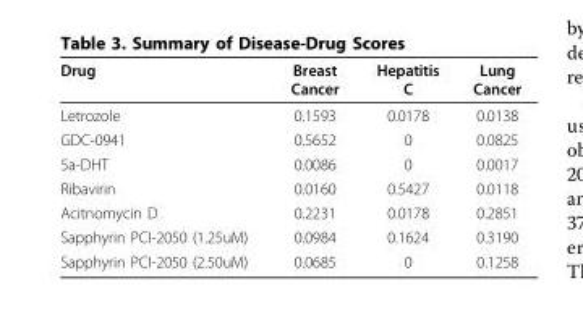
<table><thead><tr><td>Drug</td><td>Breast Cancer</td><td>Hepatitis C</td><td>Lung Cancer</td></tr></thead><tbody><tr><td>Letrozole</td><td>0.1593</td><td>0.0178</td><td>0.0138</td></tr><tr><td>GDC-0941</td><td>0.5652</td><td>0</td><td>0.0825</td></tr><tr><td>5a-DHT</td><td>0.0086</td><td>0</td><td>0.0017</td></tr><tr><td>Ribavirin</td><td>0.0160</td><td>0.5427</td><td>0.0118</td></tr><tr><td>Acitnomycin D</td><td>0.2231</td><td>0.0178</td><td>0.2851</td></tr><tr><td>Sapphyrin PCI-2050 (1.25uM)</td><td>0.0984</td><td>0.1624</td><td>0.3190</td></tr><tr><td>Sapphyrin PCI-2050 (2.50uM)</td><td>0.0685</td><td>0</td><td>0.1258</td></tr></tbody></table>